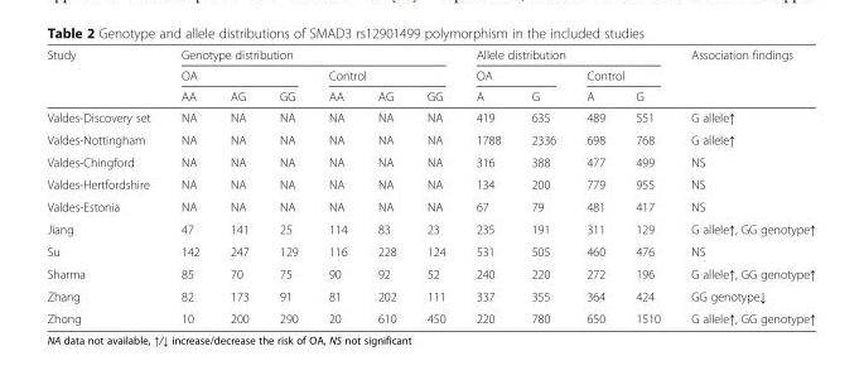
<table><thead><tr><td rowspan="3">Study</td><td colspan="6">Genotype distribution</td><td colspan="4">Allele distribution</td><td rowspan="3">Association findings</td></tr><tr><td colspan="3">OA</td><td colspan="3">Control</td><td colspan="2">OA</td><td colspan="2">Control</td></tr><tr><td>AA</td><td>AG</td><td>GG</td><td>AA</td><td>AG</td><td>GG</td><td>A</td><td>G</td><td>A</td><td>G</td></tr></thead><tbody><tr><td>Valdes-Discovery set</td><td>NA</td><td>NA</td><td>NA</td><td>NA</td><td>NA</td><td>NA</td><td>419</td><td>635</td><td>489</td><td>551</td><td>G allele↑</td></tr><tr><td>Valdes-Nottingham</td><td>NA</td><td>NA</td><td>NA</td><td>NA</td><td>NA</td><td>NA</td><td>1788</td><td>2336</td><td>698</td><td>768</td><td>G allele↑</td></tr><tr><td>Valdes-Chingford</td><td>NA</td><td>NA</td><td>NA</td><td>NA</td><td>NA</td><td>NA</td><td>316</td><td>388</td><td>477</td><td>499</td><td>NS</td></tr><tr><td>Valdes-Hertfordshire</td><td>NA</td><td>NA</td><td>NA</td><td>NA</td><td>NA</td><td>NA</td><td>134</td><td>200</td><td>779</td><td>955</td><td>NS</td></tr><tr><td>Valdes-Estonia</td><td>NA</td><td>NA</td><td>NA</td><td>NA</td><td>NA</td><td>NA</td><td>67</td><td>79</td><td>481</td><td>417</td><td>NS</td></tr><tr><td>Jiang</td><td>47</td><td>141</td><td>25</td><td>114</td><td>83</td><td>23</td><td>235</td><td>191</td><td>311</td><td>129</td><td>G allele↑, GG genotype↑</td></tr><tr><td>Su</td><td>142</td><td>247</td><td>129</td><td>116</td><td>228</td><td>124</td><td>531</td><td>505</td><td>460</td><td>476</td><td>NS</td></tr><tr><td>Sharma</td><td>85</td><td>70</td><td>75</td><td>90</td><td>92</td><td>52</td><td>240</td><td>220</td><td>272</td><td>196</td><td>G allele↑, GG genotype↑</td></tr><tr><td>Zhang</td><td>82</td><td>173</td><td>91</td><td>81</td><td>202</td><td>111</td><td>337</td><td>355</td><td>364</td><td>424</td><td>GG genotype↓</td></tr><tr><td>Zhong</td><td>10</td><td>200</td><td>290</td><td>20</td><td>610</td><td>450</td><td>220</td><td>780</td><td>650</td><td>1510</td><td>G allele↑, GG genotype↑</td></tr></tbody></table>